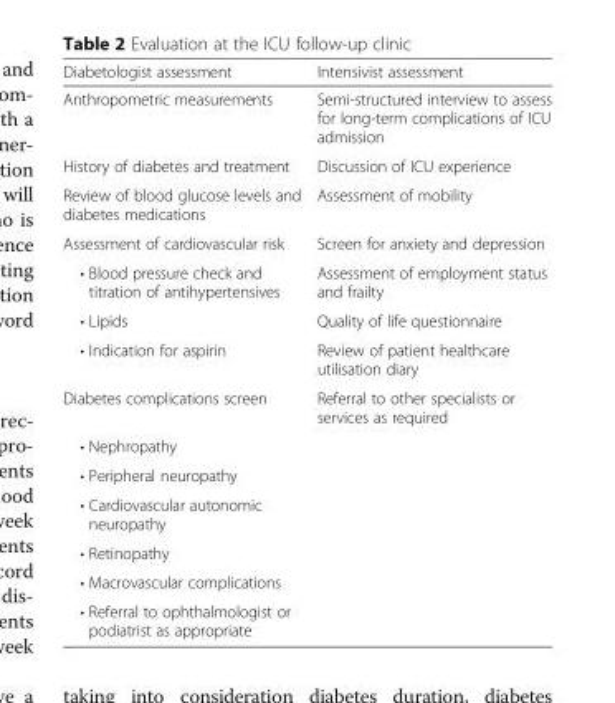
<table><thead><tr><td>Diabetologist assessment</td><td>Intensivist assessment</td></tr></thead><tbody><tr><td>Anthropometric measurements</td><td>Semi-structured interview to assess for long-term complications of ICU admission</td></tr><tr><td>History of diabetes and treatment</td><td>Discussion of ICU experience</td></tr><tr><td>Review of blood glucose levels and diabetes medications</td><td>Assessment of mobility</td></tr><tr><td>Assessment of cardiovascular risk</td><td>Screen for anxiety and depression</td></tr><tr><td>• Blood pressure check and titration of antihypertensives</td><td>Assessment of employment status and frailty</td></tr><tr><td>• Lipids</td><td>Quality of life questionnaire</td></tr><tr><td>• Indication for aspirin</td><td>Review of patient healthcare utilisation diary</td></tr><tr><td>Diabetes complications screen</td><td>Referral to other specialists or services as required</td></tr><tr><td colspan="2">• Nephropathy</td></tr><tr><td>• Peripheral neuropathy</td><td rowspan="2"></td></tr><tr><td>• Cardiovascular autonomic neuropathy</td></tr><tr><td>• Retinopathy</td><td rowspan="3"></td></tr><tr><td>• Macrovascular complications</td></tr><tr><td>• Referral to ophthalmologist or podiatrist as appropriate</td></tr></tbody></table>